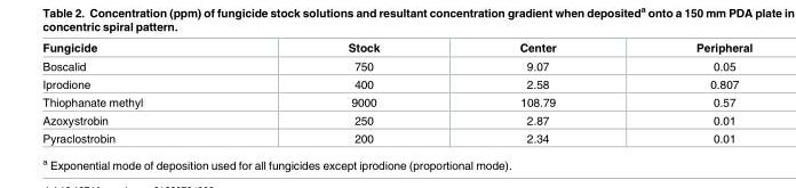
<table><thead><tr><td>Fungicide</td><td>Stock</td><td>Center</td><td>Peripheral</td></tr></thead><tbody><tr><td>Boscalid</td><td>750</td><td>9.07</td><td>0.05</td></tr><tr><td>Iprodione</td><td>400</td><td>2.58</td><td>0.807</td></tr><tr><td>Thiophanate methyl</td><td>9000</td><td>108.79</td><td>0.57</td></tr><tr><td>Azoxystrobin</td><td>250</td><td>2.87</td><td>0.01</td></tr><tr><td>Pyraclostrobin</td><td>200</td><td>2.34</td><td>0.01</td></tr></tbody></table>